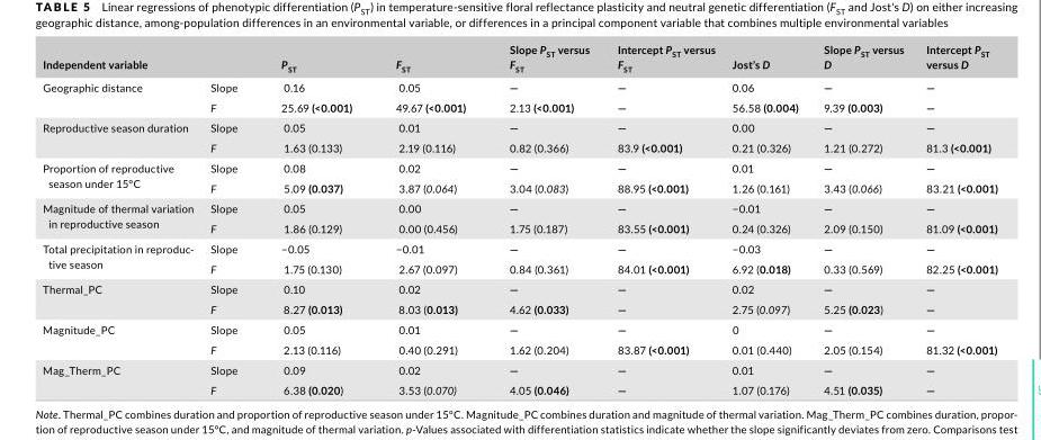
<table><thead><tr><td>Independent variable</td><td></td><td>P<sub>ST</sub></td><td>F<sub>ST</sub></td><td>Slope P<sub>ST</sub> versus F<sub>ST</sub></td><td>Intercept P<sub>ST</sub> versus F<sub>ST</sub></td><td>Jost’s D</td><td>Slope P<sub>ST</sub> versus D</td><td>Intercept P<sub>ST</sub> versus D</td></tr></thead><tbody><tr><td rowspan="2">Geographic distance</td><td>Slope</td><td>0.16</td><td>0.05</td><td>—</td><td>—</td><td>0.06</td><td>—</td><td>—</td></tr><tr><td>F</td><td>25.69 (&lt;0.001)</td><td>49.67 (&lt;0.001)</td><td>2.13 (&lt;0.001)</td><td>—</td><td>56.58 (0.004)</td><td>9.39 (0.003)</td><td>—</td></tr><tr><td rowspan="2">Reproductive season duration</td><td>Slope</td><td>0.05</td><td>0.01</td><td>—</td><td>—</td><td>0.00</td><td>—</td><td>—</td></tr><tr><td>F</td><td>1.63 (0.133)</td><td>2.19 (0.116)</td><td>0.82 (0.366)</td><td>83.9 (&lt;0.001)</td><td>0.21 (0.326)</td><td>1.21 (0.272)</td><td>81.3 (&lt;0.001)</td></tr><tr><td rowspan="2">Proportion of reproductive season under 15°C</td><td>Slope</td><td>0.08</td><td>0.02</td><td>—</td><td>—</td><td>0.01</td><td>—</td><td>—</td></tr><tr><td>F</td><td>5.09 (0.037)</td><td>3.87 (0.064)</td><td>3.04 (0.083)</td><td>88.95 (&lt;0.001)</td><td>1.26 (0.161)</td><td>3.43 (0.066)</td><td>83.21 (&lt;0.001)</td></tr><tr><td rowspan="2">Magnitude of thermal variation in reproductive season</td><td>Slope</td><td>0.05</td><td>0.00</td><td>—</td><td>—</td><td>−0.01</td><td>—</td><td>—</td></tr><tr><td>F</td><td>1.86 (0.129)</td><td>0.00 (0.456)</td><td>1.75 (0.187)</td><td>83.55 (&lt;0.001)</td><td>0.24 (0.326)</td><td>2.09 (0.150)</td><td>81.09 (&lt;0.001)</td></tr><tr><td rowspan="2">Total precipitation in reproduc‐ tive season</td><td>Slope</td><td>−0.05</td><td>−0.01</td><td>—</td><td>—</td><td>−0.03</td><td>—</td><td>—</td></tr><tr><td>F</td><td>1.75 (0.130)</td><td>2.67 (0.097)</td><td>0.84 (0.361)</td><td>84.01 (&lt;0.001)</td><td>6.92 (0.018)</td><td>0.33 (0.569)</td><td>82.25 (&lt;0.001)</td></tr><tr><td rowspan="2">Thermal_PC</td><td>Slope</td><td>0.10</td><td>0.02</td><td>—</td><td>—</td><td>0.02</td><td>—</td><td>—</td></tr><tr><td>F</td><td>8.27 (0.013)</td><td>8.03 (0.013)</td><td>4.62 (0.033)</td><td>—</td><td>2.75 (0.097)</td><td>5.25 (0.023)</td><td>—</td></tr><tr><td rowspan="2">Magnitude_PC</td><td>Slope</td><td>0.05</td><td>0.01</td><td>—</td><td>—</td><td>0</td><td>—</td><td>—</td></tr><tr><td>F</td><td>2.13 (0.116)</td><td>0.40 (0.291)</td><td>1.62 (0.204)</td><td>83.87 (&lt;0.001)</td><td>0.01 (0.440)</td><td>2.05 (0.154)</td><td>81.32 (&lt;0.001)</td></tr><tr><td rowspan="2">Mag_Therm_PC</td><td>Slope</td><td>0.09</td><td>0.02</td><td>—</td><td>—</td><td>0.01</td><td>—</td><td>—</td></tr><tr><td>F</td><td>6.38 (0.020)</td><td>3.53 (0.070)</td><td>4.05 (0.046)</td><td>—</td><td>1.07 (0.176)</td><td>4.51 (0.035)</td><td>—</td></tr></tbody></table>